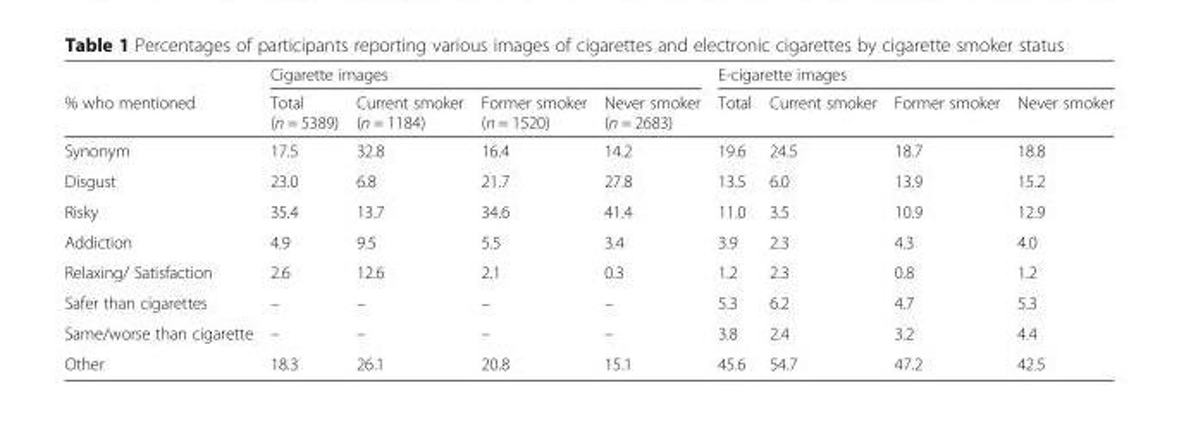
<table><thead><tr><td rowspan="2">% who mentioned</td><td colspan="4">Cigarette images</td><td colspan="4">E-cigarette images</td></tr><tr><td>Total (n = 5389)</td><td>Current smoker (n = 1184)</td><td>Former smoker (n = 1520)</td><td>Never smoker (n = 2683)</td><td>Total</td><td>Current smoker</td><td>Former smoker</td><td>Never smoker</td></tr></thead><tbody><tr><td>Synonym</td><td>17.5</td><td>32.8</td><td>16.4</td><td>14.2</td><td>19.6</td><td>24.5</td><td>18.7</td><td>18.8</td></tr><tr><td>Disgust</td><td>23.0</td><td>6.8</td><td>21.7</td><td>27.8</td><td>13.5</td><td>6.0</td><td>13.9</td><td>15.2</td></tr><tr><td>Risky</td><td>35.4</td><td>13.7</td><td>34.6</td><td>41.4</td><td>11.0</td><td>3.5</td><td>10.9</td><td>12.9</td></tr><tr><td>Addiction</td><td>4.9</td><td>9.5</td><td>5.5</td><td>3.4</td><td>3.9</td><td>2.3</td><td>4.3</td><td>4.0</td></tr><tr><td>Relaxing/ Satisfaction</td><td>2.6</td><td>12.6</td><td>2.1</td><td>0.3</td><td>1.2</td><td>2.3</td><td>0.8</td><td>1.2</td></tr><tr><td>Safer than cigarettes</td><td>–</td><td>–</td><td>–</td><td>–</td><td>5.3</td><td>6.2</td><td>4.7</td><td>5.3</td></tr><tr><td>Same/worse than cigarette</td><td>–</td><td>–</td><td>–</td><td>–</td><td>3.8</td><td>2.4</td><td>3.2</td><td>4.4</td></tr><tr><td>Other</td><td>18.3</td><td>26.1</td><td>20.8</td><td>15.1</td><td>45.6</td><td>54.7</td><td>47.2</td><td>42.5</td></tr></tbody></table>